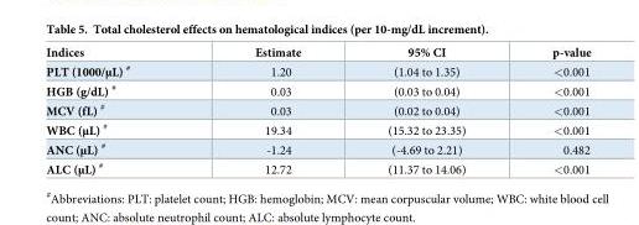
<table><thead><tr><td>Indices</td><td>Estimate</td><td>95% CI</td><td>p-value</td></tr></thead><tbody><tr><td>PLT (1000/μL) <sup>#</sup></td><td>1.20</td><td>(1.04 to 1.35)</td><td>&lt;0.001</td></tr><tr><td>HGB (g/dL) <sup>#</sup></td><td>0.03</td><td>(0.03 to 0.04)</td><td>&lt;0.001</td></tr><tr><td>MCV (fL) <sup>#</sup></td><td>0.03</td><td>(0.02 to 0.04)</td><td>&lt;0.001</td></tr><tr><td>WBC (μL) <sup>#</sup></td><td>19.34</td><td>(15.32 to 23.35)</td><td>&lt;0.001</td></tr><tr><td>ANC (μL) <sup>#</sup></td><td>-1.24</td><td>(-4.69 to 2.21)</td><td>0.482</td></tr><tr><td>ALC (μL) <sup>#</sup></td><td>12.72</td><td>(11.37 to 14.06)</td><td>&lt;0.001</td></tr></tbody></table>